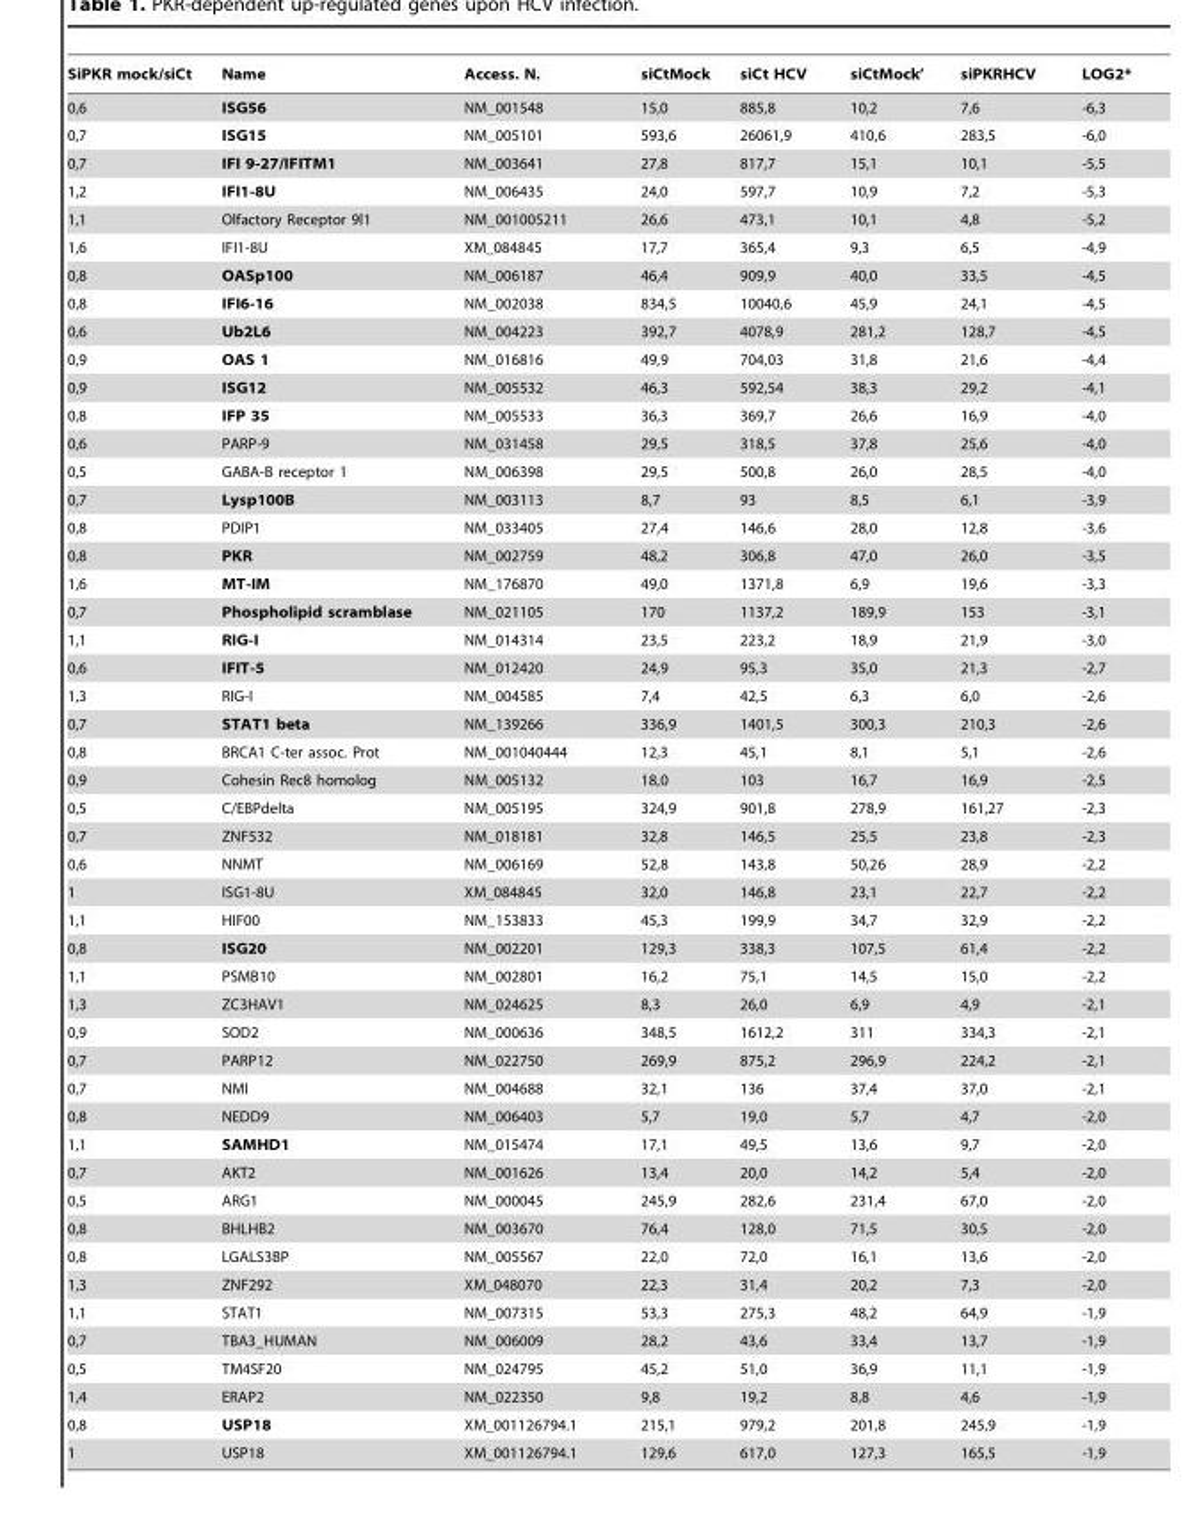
<table><thead><tr><td>SiPKR mock/siCt</td><td>Name</td><td>Access. N.</td><td>siCtMock</td><td>siCt HCV</td><td>siCtMock’</td><td>siPKRHCV</td><td>LOG2*</td></tr></thead><tbody><tr><td>0,6</td><td>ISG56</td><td>NM_001548</td><td>15,0</td><td>885,8</td><td>10,2</td><td>7,6</td><td>-6,3</td></tr><tr><td>0,7</td><td>ISG15</td><td>NM_005101</td><td>593,6</td><td>26061,9</td><td>410,6</td><td>283,5</td><td>-6,0</td></tr><tr><td>0,7</td><td>IFI 9-27/IFITM1</td><td>NM_003641</td><td>27,8</td><td>817,7</td><td>15,1</td><td>10,1</td><td>-5,5</td></tr><tr><td>1,2</td><td>IFI1-8U</td><td>NM_006435</td><td>24,0</td><td>597,7</td><td>10,9</td><td>7,2</td><td>-5,3</td></tr><tr><td>1,1</td><td>Olfactory Receptor 9l1</td><td>NM_001005211</td><td>26,6</td><td>473,1</td><td>10,1</td><td>4,8</td><td>-5,2</td></tr><tr><td>1,6</td><td>IFI1-8U</td><td>XM_084845</td><td>17,7</td><td>365,4</td><td>9,3</td><td>6,5</td><td>-4,9</td></tr><tr><td>0,8</td><td>OASp100</td><td>NM_006187</td><td>46,4</td><td>909,9</td><td>40,0</td><td>33,5</td><td>-4,5</td></tr><tr><td>0,8</td><td>IFI6-16</td><td>NM_002038</td><td>834,5</td><td>10040,6</td><td>45,9</td><td>24,1</td><td>-4,5</td></tr><tr><td>0,6</td><td>Ub2L6</td><td>NM_004223</td><td>392,7</td><td>4078,9</td><td>281,2</td><td>128,7</td><td>-4,5</td></tr><tr><td>0,9</td><td>OAS 1</td><td>NM_016816</td><td>49,9</td><td>704,03</td><td>31,8</td><td>21,6</td><td>-4,4</td></tr><tr><td>0,9</td><td>ISG12</td><td>NM_005532</td><td>46,3</td><td>592,54</td><td>38,3</td><td>29,2</td><td>-4,1</td></tr><tr><td>0,8</td><td>IFP 35</td><td>NM_005533</td><td>36,3</td><td>369,7</td><td>26,6</td><td>16,9</td><td>-4,0</td></tr><tr><td>0,6</td><td>PARP-9</td><td>NM_031458</td><td>29,5</td><td>318,5</td><td>37,8</td><td>25,6</td><td>-4,0</td></tr><tr><td>0,5</td><td>GABA-B receptor 1</td><td>NM_006398</td><td>29,5</td><td>500,8</td><td>26,0</td><td>28,5</td><td>-4,0</td></tr><tr><td>0,7</td><td>Lysp100B</td><td>NM_003113</td><td>8,7</td><td>93</td><td>8,5</td><td>6,1</td><td>-3,9</td></tr><tr><td>0,8</td><td>PDIP1</td><td>NM_033405</td><td>27,4</td><td>146,6</td><td>28,0</td><td>12,8</td><td>-3,6</td></tr><tr><td>0,8</td><td>PKR</td><td>NM_002759</td><td>48,2</td><td>306,8</td><td>47,0</td><td>26,0</td><td>-3,5</td></tr><tr><td>1,6</td><td>MT-IM</td><td>NM_176870</td><td>49,0</td><td>1371,8</td><td>6,9</td><td>19,6</td><td>-3,3</td></tr><tr><td>0,7</td><td>Phospholipid scramblase</td><td>NM_021105</td><td>170</td><td>1137,2</td><td>189,9</td><td>153</td><td>-3,1</td></tr><tr><td>1,1</td><td>RIG-I</td><td>NM_014314</td><td>23,5</td><td>223,2</td><td>18,9</td><td>21,9</td><td>-3,0</td></tr><tr><td>0,6</td><td>IFIT-5</td><td>NM_012420</td><td>24,9</td><td>95,3</td><td>35,0</td><td>21,3</td><td>-2,7</td></tr><tr><td>1,3</td><td>RIG-I</td><td>NM_004585</td><td>7,4</td><td>42,5</td><td>6,3</td><td>6,0</td><td>-2,6</td></tr><tr><td>0,7</td><td>STAT1 beta</td><td>NM_139266</td><td>336,9</td><td>1401,5</td><td>300,3</td><td>210,3</td><td>-2,6</td></tr><tr><td>0,8</td><td>BRCA1 C-ter assoc. Prot</td><td>NM_001040444</td><td>12,3</td><td>45,1</td><td>8,1</td><td>5,1</td><td>-2,6</td></tr><tr><td>0,9</td><td>Cohesin Rec8 homolog</td><td>NM_005132</td><td>18,0</td><td>103</td><td>16,7</td><td>16,9</td><td>-2,5</td></tr><tr><td>0,5</td><td>C/EBPdelta</td><td>NM_005195</td><td>324,9</td><td>901,8</td><td>278,9</td><td>161,27</td><td>-2,3</td></tr><tr><td>0,7</td><td>ZNF532</td><td>NM_018181</td><td>32,8</td><td>146,5</td><td>25,5</td><td>23,8</td><td>-2,3</td></tr><tr><td>0,6</td><td>NNMT</td><td>NM_006169</td><td>52,8</td><td>143,8</td><td>50,26</td><td>28,9</td><td>-2,2</td></tr><tr><td>1</td><td>ISG1-8U</td><td>XM_084845</td><td>32,0</td><td>146,8</td><td>23,1</td><td>22,7</td><td>-2,2</td></tr><tr><td>1,1</td><td>HIF00</td><td>NM_153833</td><td>45,3</td><td>199,9</td><td>34,7</td><td>32,9</td><td>-2,2</td></tr><tr><td>0,8</td><td>ISG20</td><td>NM_002201</td><td>129,3</td><td>338,3</td><td>107,5</td><td>61,4</td><td>-2,2</td></tr><tr><td>1,1</td><td>PSMB10</td><td>NM_002801</td><td>16,2</td><td>75,1</td><td>14,5</td><td>15,0</td><td>-2,2</td></tr><tr><td>1,3</td><td>ZC3HAV1</td><td>NM_024625</td><td>8,3</td><td>26,0</td><td>6,9</td><td>4,9</td><td>-2,1</td></tr><tr><td>0,9</td><td>SOD2</td><td>NM_000636</td><td>348,5</td><td>1612,2</td><td>311</td><td>334,3</td><td>-2,1</td></tr><tr><td>0,7</td><td>PARP12</td><td>NM_022750</td><td>269,9</td><td>875,2</td><td>296,9</td><td>224,2</td><td>-2,1</td></tr><tr><td>0,7</td><td>NMI</td><td>NM_004688</td><td>32,1</td><td>136</td><td>37,4</td><td>37,0</td><td>-2,1</td></tr><tr><td>0,8</td><td>NEDD9</td><td>NM_006403</td><td>5,7</td><td>19,0</td><td>5,7</td><td>4,7</td><td>-2,0</td></tr><tr><td>1,1</td><td>SAMHD1</td><td>NM_015474</td><td>17,1</td><td>49,5</td><td>13,6</td><td>9,7</td><td>-2,0</td></tr><tr><td>0,7</td><td>AKT2</td><td>NM_001626</td><td>13,4</td><td>20,0</td><td>14,2</td><td>5,4</td><td>-2,0</td></tr><tr><td>0,5</td><td>ARG1</td><td>NM_000045</td><td>245,9</td><td>282,6</td><td>231,4</td><td>67,0</td><td>-2,0</td></tr><tr><td>0,8</td><td>BHLHB2</td><td>NM_003670</td><td>76,4</td><td>128,0</td><td>71,5</td><td>30,5</td><td>-2,0</td></tr><tr><td>0,8</td><td>LGALS3BP</td><td>NM_005567</td><td>22,0</td><td>72,0</td><td>16,1</td><td>13,6</td><td>-2,0</td></tr><tr><td>1,3</td><td>ZNF292</td><td>XM_048070</td><td>22,3</td><td>31,4</td><td>20,2</td><td>7,3</td><td>-2,0</td></tr><tr><td>1,1</td><td>STAT1</td><td>NM_007315</td><td>53,3</td><td>275,3</td><td>48,2</td><td>64,9</td><td>-1,9</td></tr><tr><td>0,7</td><td>TBA3_HUMAN</td><td>NM_006009</td><td>28,2</td><td>43,6</td><td>33,4</td><td>13,7</td><td>-1,9</td></tr><tr><td>0,5</td><td>TM4SF20</td><td>NM_024795</td><td>45,2</td><td>51,0</td><td>36,9</td><td>11,1</td><td>-1,9</td></tr><tr><td>1,4</td><td>ERAP2</td><td>NM_022350</td><td>9,8</td><td>19,2</td><td>8,8</td><td>4,6</td><td>-1,9</td></tr><tr><td>0,8</td><td>USP18</td><td>XM_001126794.1</td><td>215,1</td><td>979,2</td><td>201,8</td><td>245,9</td><td>-1,9</td></tr><tr><td>1</td><td>USP18</td><td>XM_001126794.1</td><td>129,6</td><td>617,0</td><td>127,3</td><td>165,5</td><td>-1,9</td></tr></tbody></table>